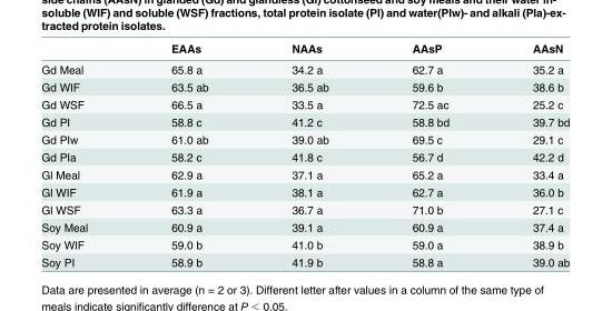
<table><thead><tr><td></td><td>EAAs</td><td>NAAs</td><td>AAsP</td><td>AAsN</td></tr></thead><tbody><tr><td>Gd Meal</td><td>65.8 a</td><td>34.2 a</td><td>62.7 a</td><td>35.2 a</td></tr><tr><td>Gd WIF</td><td>63.5 ab</td><td>36.5 ab</td><td>59.6 b</td><td>38.6 b</td></tr><tr><td>Gd WSF</td><td>66.5 a</td><td>33.5 a</td><td>72.5 ac</td><td>25.2 c</td></tr><tr><td>Gd PI</td><td>58.8 c</td><td>41.2 c</td><td>58.8 bd</td><td>39.7 bd</td></tr><tr><td>Gd PIw</td><td>61.0 ab</td><td>39.0 ab</td><td>69.5 c</td><td>29.1 c</td></tr><tr><td>Gd PIa</td><td>58.2 c</td><td>41.8 c</td><td>56.7 d</td><td>42.2 d</td></tr><tr><td>Gl Meal</td><td>62.9 a</td><td>37.1 a</td><td>65.2 a</td><td>33.4 a</td></tr><tr><td>Gl WIF</td><td>61.9 a</td><td>38.1 a</td><td>62.7 a</td><td>36.0 b</td></tr><tr><td>Gl WSF</td><td>63.3 a</td><td>36.7 a</td><td>71.0 b</td><td>27.1 c</td></tr><tr><td>Soy Meal</td><td>60.9 a</td><td>39.1 a</td><td>60.9 a</td><td>37.4 a</td></tr><tr><td>Soy WIF</td><td>59.0 b</td><td>41.0 b</td><td>59.0 a</td><td>38.9 b</td></tr><tr><td>Soy PI</td><td>58.9 b</td><td>41.9 b</td><td>58.8 a</td><td>39.0 ab</td></tr></tbody></table>